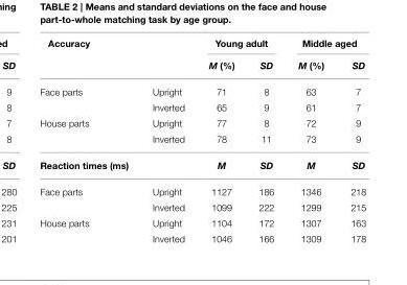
<table><thead><tr><td colspan="2">Accuracy</td><td colspan="2">Young adult</td><td colspan="2">Middle aged</td></tr><tr><td></td><td></td><td>M (%)</td><td>SD</td><td>M (%)</td><td>SD</td></tr></thead><tbody><tr><td rowspan="2">Face parts</td><td>Upright</td><td>71</td><td>8</td><td>63</td><td>7</td></tr><tr><td>Inverted</td><td>65</td><td>9</td><td>61</td><td>7</td></tr><tr><td rowspan="2">House parts</td><td>Upright</td><td>77</td><td>8</td><td>72</td><td>9</td></tr><tr><td>Inverted</td><td>78</td><td>11</td><td>73</td><td>9</td></tr><tr><td>Reaction times (ms)</td><td></td><td>M</td><td>SD</td><td>M</td><td>SD</td></tr><tr><td rowspan="2">Face parts</td><td>Upright</td><td>1127</td><td>186</td><td>1346</td><td>218</td></tr><tr><td>Inverted</td><td>1099</td><td>222</td><td>1299</td><td>215</td></tr><tr><td rowspan="2">House parts</td><td>Upright</td><td>1104</td><td>172</td><td>1307</td><td>163</td></tr><tr><td>Inverted</td><td>1046</td><td>166</td><td>1309</td><td>178</td></tr></tbody></table>